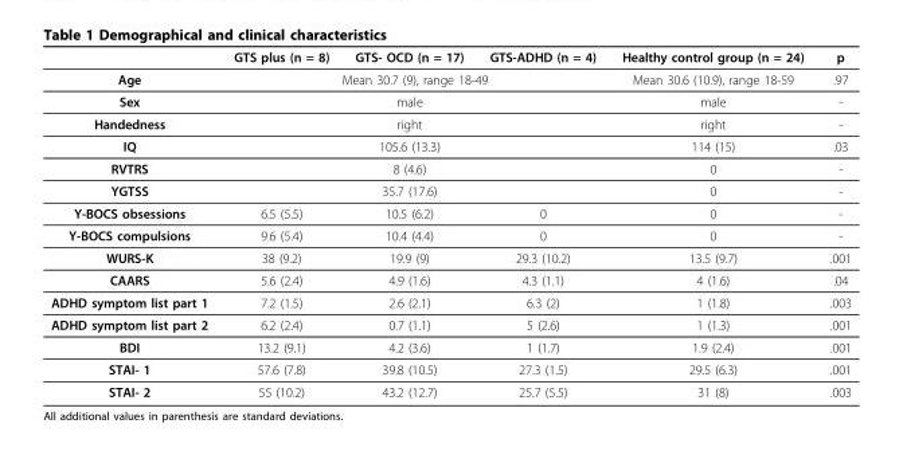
<table><thead><tr><td></td><td>GTS plus (n = 8)</td><td>GTS- OCD (n = 17)</td><td>GTS-ADHD (n = 4)</td><td>Healthy control group (n = 24)</td><td>p</td></tr></thead><tbody><tr><td>Age</td><td colspan="3">Mean 30.7 (9), range 18-49</td><td>Mean 30.6 (10.9), range 18-59</td><td>.97</td></tr><tr><td>Sex</td><td></td><td>male</td><td></td><td>male</td><td>-</td></tr><tr><td>Handedness</td><td></td><td>right</td><td></td><td>right</td><td>-</td></tr><tr><td>IQ</td><td></td><td>105.6 (13.3)</td><td></td><td>114 (15)</td><td>.03</td></tr><tr><td>RVTRS</td><td></td><td>8 (4.6)</td><td></td><td>0</td><td>-</td></tr><tr><td>YGTSS</td><td></td><td>35.7 (17.6)</td><td></td><td>0</td><td>-</td></tr><tr><td>Y-BOCS obsessions</td><td>6.5 (5.5)</td><td>10.5 (6.2)</td><td>0</td><td>0</td><td>-</td></tr><tr><td>Y-BOCS compulsions</td><td>9.6 (5.4)</td><td>10.4 (4.4)</td><td>0</td><td>0</td><td>-</td></tr><tr><td>WURS-K</td><td>38 (9.2)</td><td>19.9 (9)</td><td>29.3 (10.2)</td><td>13.5 (9.7)</td><td>.001</td></tr><tr><td>CAARS</td><td>5.6 (2.4)</td><td>4.9 (1.6)</td><td>4.3 (1.1)</td><td>4 (1.6)</td><td>.04</td></tr><tr><td>ADHD symptom list part 1</td><td>7.2 (1.5)</td><td>2.6 (2.1)</td><td>6.3 (2)</td><td>1 (1.8)</td><td>.003</td></tr><tr><td>ADHD symptom list part 2</td><td>6.2 (2.4)</td><td>0.7 (1.1)</td><td>5 (2.6)</td><td>1 (1.3)</td><td>.001</td></tr><tr><td>BDI</td><td>13.2 (9.1)</td><td>4.2 (3.6)</td><td>1 (1.7)</td><td>1.9 (2.4)</td><td>.001</td></tr><tr><td>STAI- 1</td><td>57.6 (7.8)</td><td>39.8 (10.5)</td><td>27.3 (1.5)</td><td>29.5 (6.3)</td><td>.001</td></tr><tr><td>STAI- 2</td><td>55 (10.2)</td><td>43.2 (12.7)</td><td>25.7 (5.5)</td><td>31 (8)</td><td>.003</td></tr></tbody></table>